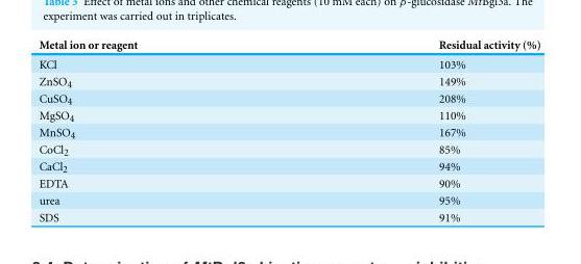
<table><thead><tr><td>Metal ion or reagent</td><td>Residual activity (%)</td></tr></thead><tbody><tr><td>KCl</td><td>103%</td></tr><tr><td>ZnSO<sub>4</sub></td><td>149%</td></tr><tr><td>CuSO<sub>4</sub></td><td>208%</td></tr><tr><td>MgSO<sub>4</sub></td><td>110%</td></tr><tr><td>MnSO<sub>4</sub></td><td>167%</td></tr><tr><td>CoCl<sub>2</sub></td><td>85%</td></tr><tr><td>CaCl<sub>2</sub></td><td>94%</td></tr><tr><td>EDTA</td><td>90%</td></tr><tr><td>urea</td><td>95%</td></tr><tr><td>SDS</td><td>91%</td></tr></tbody></table>